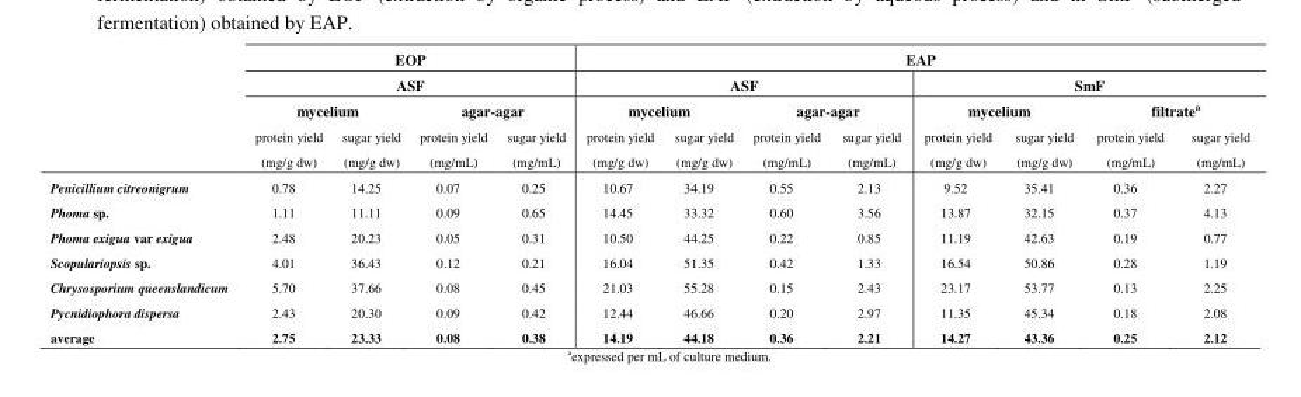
<table><thead><tr><td rowspan="5"></td><td rowspan="2" colspan="4">EOP ASF</td><td colspan="8">EAP</td></tr><tr><td colspan="4">ASF</td><td colspan="4">SmF</td></tr><tr><td colspan="2">mycelium</td><td colspan="2">agar-agar</td><td colspan="2">mycelium</td><td colspan="2">agar-agar</td><td colspan="2">mycelium</td><td colspan="2">filtrate<sup>a</sup></td></tr><tr><td rowspan="2">protein yield (mg/g dw)</td><td rowspan="2">sugar yield (mg/g dw)</td><td rowspan="2">protein yield (mg/mL)</td><td rowspan="2">sugar yield (mg/mL)</td><td rowspan="2">protein yield (mg/g dw)</td><td rowspan="2">sugar yield (mg/g dw)</td><td rowspan="2">protein yield (mg/mL)</td><td rowspan="2">sugar yield (mg/mL)</td><td rowspan="2">protein yield (mg/g dw)</td><td rowspan="2">sugar yield (mg/g dw)</td><td rowspan="2">protein yield (mg/mL)</td><td rowspan="2">sugar yield (mg/mL)</td></tr><tr></tr></thead><tbody><tr><td>Penicillium citreonigrum</td><td>0.78</td><td>14.25</td><td>0.07</td><td>0.25</td><td>10.67</td><td>34.19</td><td>0.55</td><td>2.13</td><td>9.52</td><td>35.41</td><td>0.36</td><td>2.27</td></tr><tr><td>Phoma sp.</td><td>1.11</td><td>11.11</td><td>0.09</td><td>0.65</td><td>14.45</td><td>33.32</td><td>0.60</td><td>3.56</td><td>13.87</td><td>32.15</td><td>0.37</td><td>4.13</td></tr><tr><td>Phoma exigua var exigua</td><td>2.48</td><td>20.23</td><td>0.05</td><td>0.31</td><td>10.50</td><td>44.25</td><td>0.22</td><td>0.85</td><td>11.19</td><td>42.63</td><td>0.19</td><td>0.77</td></tr><tr><td>Scopulariopsis sp.</td><td>4.01</td><td>36.43</td><td>0.12</td><td>0.21</td><td>16.04</td><td>51.35</td><td>0.42</td><td>1.33</td><td>16.54</td><td>50.86</td><td>0.28</td><td>1.19</td></tr><tr><td>Chrysosporium queenslandicum</td><td>5.70</td><td>37.66</td><td>0.08</td><td>0.45</td><td>21.03</td><td>55.28</td><td>0.15</td><td>2.43</td><td>23.17</td><td>53.77</td><td>0.13</td><td>2.25</td></tr><tr><td>Pycnidiophora dispersa</td><td>2.43</td><td>20.30</td><td>0.09</td><td>0.42</td><td>12.44</td><td>46.66</td><td>0.20</td><td>2.97</td><td>11.35</td><td>45.34</td><td>0.18</td><td>2.08</td></tr><tr><td>average</td><td>2.75</td><td>23.33</td><td>0.08</td><td>0.38</td><td>14.19</td><td>44.18</td><td>0.36</td><td>2.21</td><td>14.27</td><td>43.36</td><td>0.25</td><td>2.12</td></tr></tbody></table>